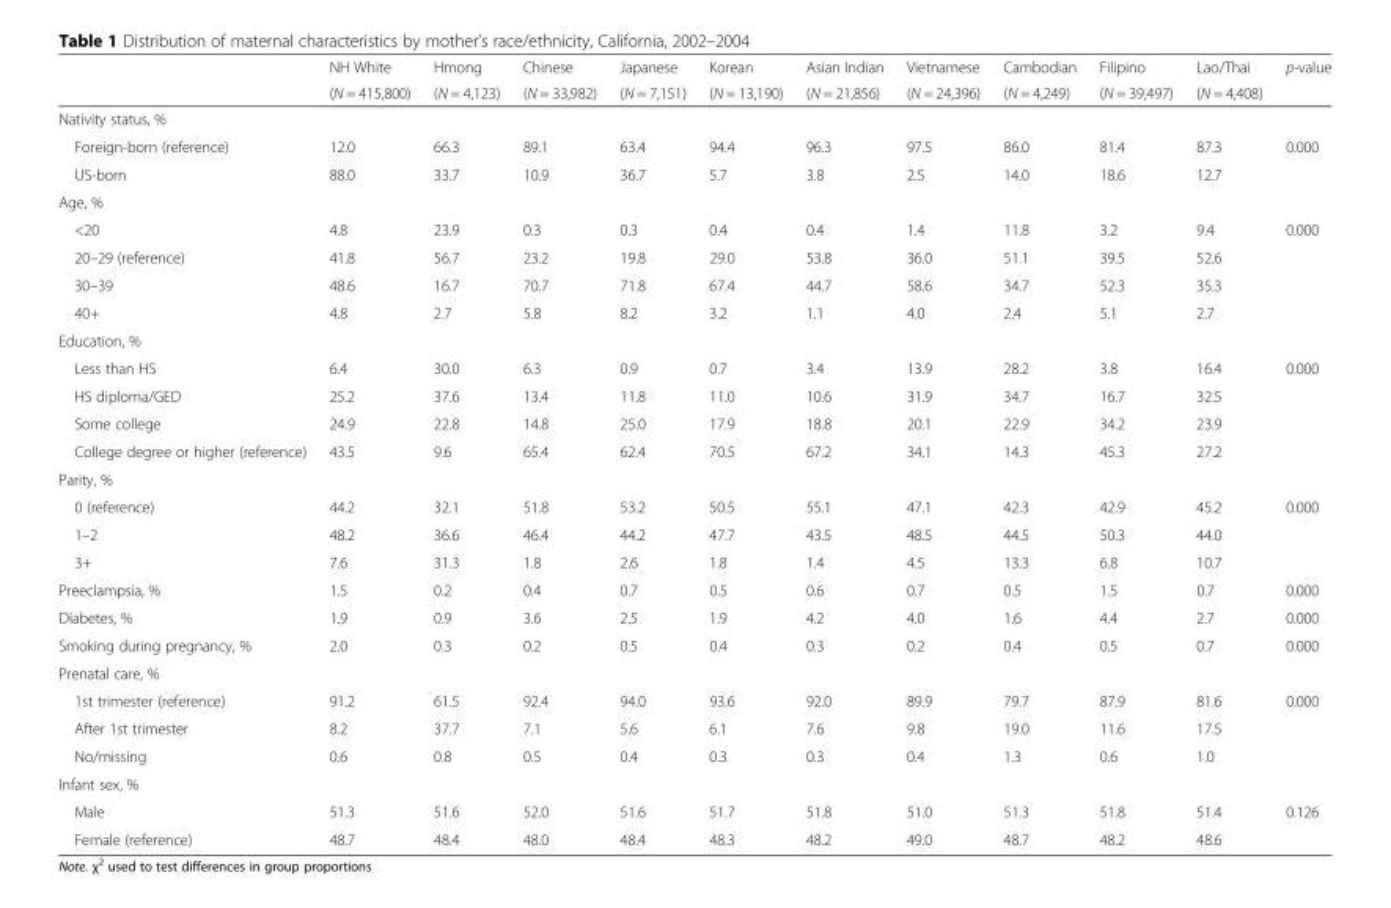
<table><thead><tr><td rowspan="2"></td><td rowspan="2">NH White (N = 415,800)</td><td rowspan="2">Hmong (N = 4,123)</td><td rowspan="2">Chinese (N = 33,982)</td><td rowspan="2">Japanese (N = 7,151)</td><td rowspan="2">Korean (N = 13,190)</td><td rowspan="2">Asian Indian (N = 21,856)</td><td rowspan="2">Vietnamese (N = 24,396)</td><td rowspan="2">Cambodian (N = 4,249)</td><td rowspan="2">Filipino (N = 39,497)</td><td rowspan="2">Lao/Thai (N = 4,408)</td><td rowspan="2">p-value</td></tr><tr></tr></thead><tbody><tr><td colspan="12">Nativity status, %</td></tr><tr><td>Foreign-born (reference)</td><td>12.0</td><td>66.3</td><td>89.1</td><td>63.4</td><td>94.4</td><td>96.3</td><td>97.5</td><td>86.0</td><td>81.4</td><td>87.3</td><td>0.000</td></tr><tr><td>US-born</td><td>88.0</td><td>33.7</td><td>10.9</td><td>36.7</td><td>5.7</td><td>3.8</td><td>2.5</td><td>14.0</td><td>18.6</td><td>12.7</td><td></td></tr><tr><td colspan="12">Age, %</td></tr><tr><td>&lt;20</td><td>4.8</td><td>23.9</td><td>0.3</td><td>0.3</td><td>0.4</td><td>0.4</td><td>1.4</td><td>11.8</td><td>3.2</td><td>9.4</td><td>0.000</td></tr><tr><td>20–29 (reference)</td><td>41.8</td><td>56.7</td><td>23.2</td><td>19.8</td><td>29.0</td><td>53.8</td><td>36.0</td><td>51.1</td><td>39.5</td><td>52.6</td><td></td></tr><tr><td>30–39</td><td>48.6</td><td>16.7</td><td>70.7</td><td>71.8</td><td>67.4</td><td>44.7</td><td>58.6</td><td>34.7</td><td>52.3</td><td>35.3</td><td></td></tr><tr><td>40+</td><td>4.8</td><td>2.7</td><td>5.8</td><td>8.2</td><td>3.2</td><td>1.1</td><td>4.0</td><td>2.4</td><td>5.1</td><td>2.7</td><td></td></tr><tr><td colspan="12">Education, %</td></tr><tr><td>Less than HS</td><td>6.4</td><td>30.0</td><td>6.3</td><td>0.9</td><td>0.7</td><td>3.4</td><td>13.9</td><td>28.2</td><td>3.8</td><td>16.4</td><td>0.000</td></tr><tr><td>HS diploma/GED</td><td>25.2</td><td>37.6</td><td>13.4</td><td>11.8</td><td>11.0</td><td>10.6</td><td>31.9</td><td>34.7</td><td>16.7</td><td>32.5</td><td></td></tr><tr><td>Some college</td><td>24.9</td><td>22.8</td><td>14.8</td><td>25.0</td><td>17.9</td><td>18.8</td><td>20.1</td><td>22.9</td><td>34.2</td><td>23.9</td><td></td></tr><tr><td>College degree or higher (reference)</td><td>43.5</td><td>9.6</td><td>65.4</td><td>62.4</td><td>70.5</td><td>67.2</td><td>34.1</td><td>14.3</td><td>45.3</td><td>27.2</td><td></td></tr><tr><td colspan="12">Parity, %</td></tr><tr><td>0 (reference)</td><td>44.2</td><td>32.1</td><td>51.8</td><td>53.2</td><td>50.5</td><td>55.1</td><td>47.1</td><td>42.3</td><td>42.9</td><td>45.2</td><td>0.000</td></tr><tr><td>1–2</td><td>48.2</td><td>36.6</td><td>46.4</td><td>44.2</td><td>47.7</td><td>43.5</td><td>48.5</td><td>44.5</td><td>50.3</td><td>44.0</td><td></td></tr><tr><td>3+</td><td>7.6</td><td>31.3</td><td>1.8</td><td>2.6</td><td>1.8</td><td>1.4</td><td>4.5</td><td>13.3</td><td>6.8</td><td>10.7</td><td></td></tr><tr><td>Preeclampsia, %</td><td>1.5</td><td>0.2</td><td>0.4</td><td>0.7</td><td>0.5</td><td>0.6</td><td>0.7</td><td>0.5</td><td>1.5</td><td>0.7</td><td>0.000</td></tr><tr><td>Diabetes, %</td><td>1.9</td><td>0.9</td><td>3.6</td><td>2.5</td><td>1.9</td><td>4.2</td><td>4.0</td><td>1.6</td><td>4.4</td><td>2.7</td><td>0.000</td></tr><tr><td>Smoking during pregnancy, %</td><td>2.0</td><td>0.3</td><td>0.2</td><td>0.5</td><td>0.4</td><td>0.3</td><td>0.2</td><td>0.4</td><td>0.5</td><td>0.7</td><td>0.000</td></tr><tr><td colspan="12">Prenatal care, %</td></tr><tr><td>1st trimester (reference)</td><td>91.2</td><td>61.5</td><td>92.4</td><td>94.0</td><td>93.6</td><td>92.0</td><td>89.9</td><td>79.7</td><td>87.9</td><td>81.6</td><td>0.000</td></tr><tr><td>After 1st trimester</td><td>8.2</td><td>37.7</td><td>7.1</td><td>5.6</td><td>6.1</td><td>7.6</td><td>9.8</td><td>19.0</td><td>11.6</td><td>17.5</td><td></td></tr><tr><td>No/missing</td><td>0.6</td><td>0.8</td><td>0.5</td><td>0.4</td><td>0.3</td><td>0.3</td><td>0.4</td><td>1.3</td><td>0.6</td><td>1.0</td><td></td></tr><tr><td colspan="12">Infant sex, %</td></tr><tr><td>Male</td><td>51.3</td><td>51.6</td><td>52.0</td><td>51.6</td><td>51.7</td><td>51.8</td><td>51.0</td><td>51.3</td><td>51.8</td><td>51.4</td><td>0.126</td></tr><tr><td>Female (reference)</td><td>48.7</td><td>48.4</td><td>48.0</td><td>48.4</td><td>48.3</td><td>48.2</td><td>49.0</td><td>48.7</td><td>48.2</td><td>48.6</td><td></td></tr></tbody></table>